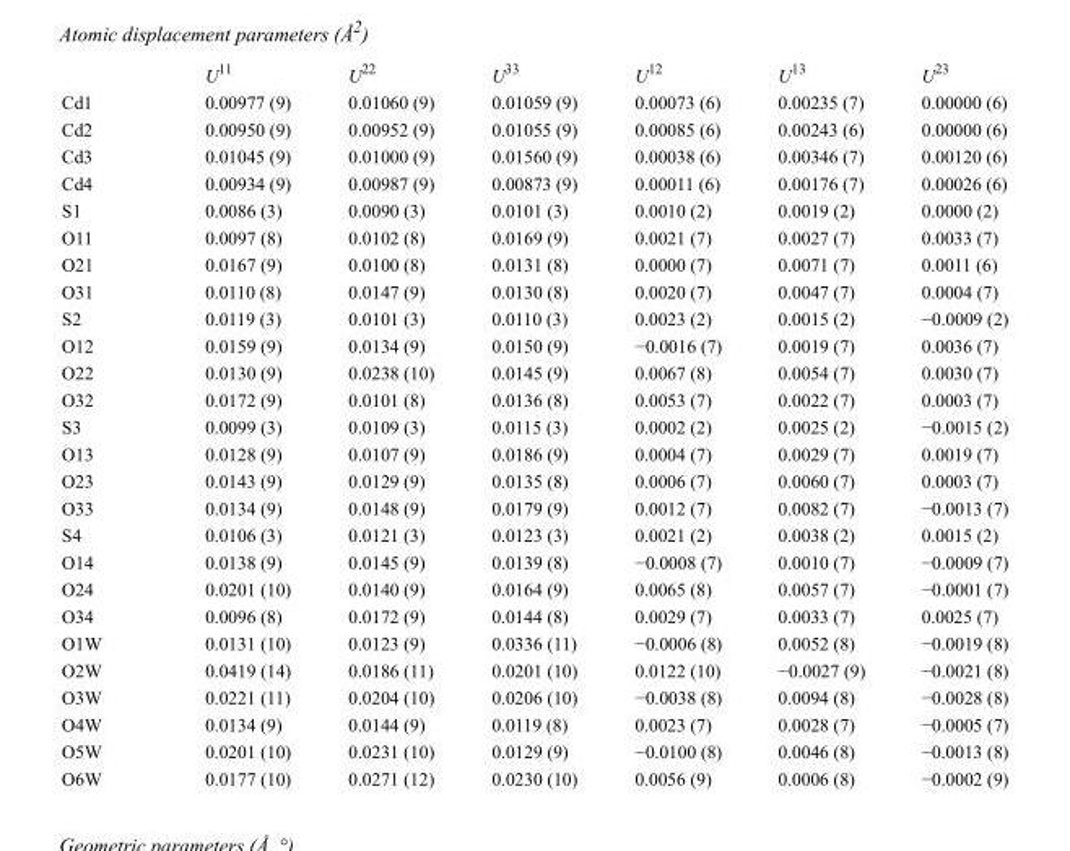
<table><thead><tr><td></td><td>U<sup>11</sup></td><td>U<sup>22</sup></td><td>U<sup>33</sup></td><td>U<sup>12</sup></td><td>U<sup>13</sup></td><td>U<sup>23</sup></td></tr></thead><tbody><tr><td>Cd1</td><td>0.00977 (9)</td><td>0.01060 (9)</td><td>0.01059 (9)</td><td>0.00073 (6)</td><td>0.00235 (7)</td><td>0.00000 (6)</td></tr><tr><td>Cd2</td><td>0.00950 (9)</td><td>0.00952 (9)</td><td>0.01055 (9)</td><td>0.00085 (6)</td><td>0.00243 (6)</td><td>0.00000 (6)</td></tr><tr><td>Cd3</td><td>0.01045 (9)</td><td>0.01000 (9)</td><td>0.01560 (9)</td><td>0.00038 (6)</td><td>0.00346 (7)</td><td>0.00120 (6)</td></tr><tr><td>Cd4</td><td>0.00934 (9)</td><td>0.00987 (9)</td><td>0.00873 (9)</td><td>0.00011 (6)</td><td>0.00176 (7)</td><td>0.00026 (6)</td></tr><tr><td>S1</td><td>0.0086 (3)</td><td>0.0090 (3)</td><td>0.0101 (3)</td><td>0.0010 (2)</td><td>0.0019 (2)</td><td>0.0000 (2)</td></tr><tr><td>O11</td><td>0.0097 (8)</td><td>0.0102 (8)</td><td>0.0169 (9)</td><td>0.0021 (7)</td><td>0.0027 (7)</td><td>0.0033 (7)</td></tr><tr><td>O21</td><td>0.0167 (9)</td><td>0.0100 (8)</td><td>0.0131 (8)</td><td>0.0000 (7)</td><td>0.0071 (7)</td><td>0.0011 (6)</td></tr><tr><td>O31</td><td>0.0110 (8)</td><td>0.0147 (9)</td><td>0.0130 (8)</td><td>0.0020 (7)</td><td>0.0047 (7)</td><td>0.0004 (7)</td></tr><tr><td>S2</td><td>0.0119 (3)</td><td>0.0101 (3)</td><td>0.0110 (3)</td><td>0.0023 (2)</td><td>0.0015 (2)</td><td>−0.0009 (2)</td></tr><tr><td>O12</td><td>0.0159 (9)</td><td>0.0134 (9)</td><td>0.0150 (9)</td><td>−0.0016 (7)</td><td>0.0019 (7)</td><td>0.0036 (7)</td></tr><tr><td>O22</td><td>0.0130 (9)</td><td>0.0238 (10)</td><td>0.0145 (9)</td><td>0.0067 (8)</td><td>0.0054 (7)</td><td>0.0030 (7)</td></tr><tr><td>O32</td><td>0.0172 (9)</td><td>0.0101 (8)</td><td>0.0136 (8)</td><td>0.0053 (7)</td><td>0.0022 (7)</td><td>0.0003 (7)</td></tr><tr><td>S3</td><td>0.0099 (3)</td><td>0.0109 (3)</td><td>0.0115 (3)</td><td>0.0002 (2)</td><td>0.0025 (2)</td><td>−0.0015 (2)</td></tr><tr><td>O13</td><td>0.0128 (9)</td><td>0.0107 (9)</td><td>0.0186 (9)</td><td>0.0004 (7)</td><td>0.0029 (7)</td><td>0.0019 (7)</td></tr><tr><td>O23</td><td>0.0143 (9)</td><td>0.0129 (9)</td><td>0.0135 (8)</td><td>0.0006 (7)</td><td>0.0060 (7)</td><td>0.0003 (7)</td></tr><tr><td>O33</td><td>0.0134 (9)</td><td>0.0148 (9)</td><td>0.0179 (9)</td><td>0.0012 (7)</td><td>0.0082 (7)</td><td>−0.0013 (7)</td></tr><tr><td>S4</td><td>0.0106 (3)</td><td>0.0121 (3)</td><td>0.0123 (3)</td><td>0.0021 (2)</td><td>0.0038 (2)</td><td>0.0015 (2)</td></tr><tr><td>O14</td><td>0.0138 (9)</td><td>0.0145 (9)</td><td>0.0139 (8)</td><td>−0.0008 (7)</td><td>0.0010 (7)</td><td>−0.0009 (7)</td></tr><tr><td>O24</td><td>0.0201 (10)</td><td>0.0140 (9)</td><td>0.0164 (9)</td><td>0.0065 (8)</td><td>0.0057 (7)</td><td>−0.0001 (7)</td></tr><tr><td>O34</td><td>0.0096 (8)</td><td>0.0172 (9)</td><td>0.0144 (8)</td><td>0.0029 (7)</td><td>0.0033 (7)</td><td>0.0025 (7)</td></tr><tr><td>O1W</td><td>0.0131 (10)</td><td>0.0123 (9)</td><td>0.0336 (11)</td><td>−0.0006 (8)</td><td>0.0052 (8)</td><td>−0.0019 (8)</td></tr><tr><td>O2W</td><td>0.0419 (14)</td><td>0.0186 (11)</td><td>0.0201 (10)</td><td>0.0122 (10)</td><td>−0.0027 (9)</td><td>−0.0021 (8)</td></tr><tr><td>O3W</td><td>0.0221 (11)</td><td>0.0204 (10)</td><td>0.0206 (10)</td><td>−0.0038 (8)</td><td>0.0094 (8)</td><td>−0.0028 (8)</td></tr><tr><td>O4W</td><td>0.0134 (9)</td><td>0.0144 (9)</td><td>0.0119 (8)</td><td>0.0023 (7)</td><td>0.0028 (7)</td><td>−0.0005 (7)</td></tr><tr><td>O5W</td><td>0.0201 (10)</td><td>0.0231 (10)</td><td>0.0129 (9)</td><td>−0.0100 (8)</td><td>0.0046 (8)</td><td>−0.0013 (8)</td></tr><tr><td>O6W</td><td>0.0177 (10)</td><td>0.0271 (12)</td><td>0.0230 (10)</td><td>0.0056 (9)</td><td>0.0006 (8)</td><td>−0.0002 (9)</td></tr></tbody></table>